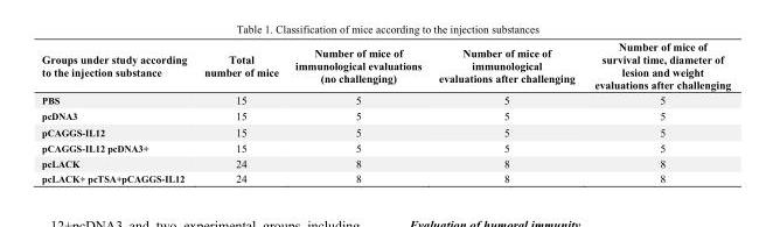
<table><thead><tr><td>Groups under study according to the injection substance</td><td>Total number of mice</td><td>Number of mice of immunological evaluations (no challenging)</td><td>Number of mice of immunological evaluations after challenging</td><td>Number of mice of survival time, diameter of lesion and weight evaluations after challenging</td></tr></thead><tbody><tr><td>PBS</td><td>15</td><td>5</td><td>5</td><td>5</td></tr><tr><td>pcDNA3</td><td>15</td><td>5</td><td>5</td><td>5</td></tr><tr><td>pCAGGS-IL12</td><td>15</td><td>5</td><td>5</td><td>5</td></tr><tr><td>pCAGGS-IL12 pcDNA3+</td><td>15</td><td>5</td><td>5</td><td>5</td></tr><tr><td>pcLACK</td><td>24</td><td>8</td><td>8</td><td>8</td></tr><tr><td>pcLACK+ pcTSA+pCAGGS-IL12</td><td>24</td><td>8</td><td>8</td><td>8</td></tr></tbody></table>